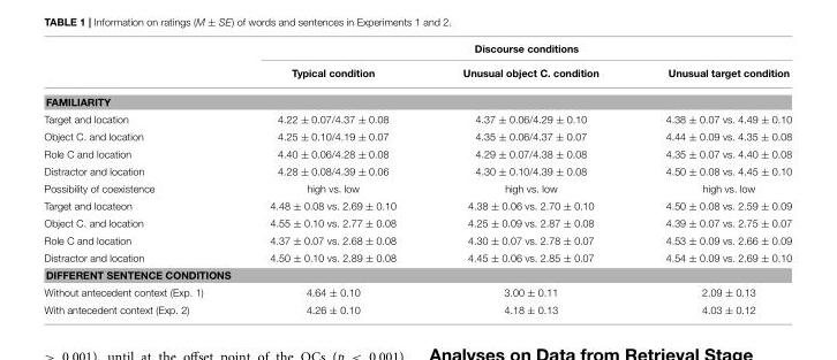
<table><thead><tr><td rowspan="2"></td><td colspan="3">Discourse conditions</td></tr><tr><td>Typical condition</td><td>Unusual object C. condition</td><td>Unusual target condition</td></tr></thead><tbody><tr><td colspan="4">FAMILIARITY</td></tr><tr><td>Target and location</td><td>4.22 ± 0.07/4.37 ± 0.08</td><td>4.37 ± 0.06/4.29 ± 0.10</td><td>4.38 ± 0.07 vs. 4.49 ± 0.10</td></tr><tr><td>Object C. and location</td><td>4.25 ± 0.10/4.19 ± 0.07</td><td>4.35 ± 0.06/4.37 ± 0.07</td><td>4.44 ± 0.09 vs. 4.35 ± 0.08</td></tr><tr><td>Role C and location</td><td>4.40 ± 0.06/4.28 ± 0.08</td><td>4.29 ± 0.07/4.38 ± 0.08</td><td>4.35 ± 0.07 vs. 4.40 ± 0.08</td></tr><tr><td>Distractor and location</td><td>4.28 ± 0.08/4.39 ± 0.06</td><td>4.30 ± 0.10/4.39 ± 0.08</td><td>4.50 ± 0.08 vs. 4.45 ± 0.10</td></tr><tr><td>Possibility of coexistence</td><td>high vs. low</td><td>high vs. low</td><td>high vs. low</td></tr><tr><td>Target and locateon</td><td>4.48 ± 0.08 vs. 2.69 ± 0.10</td><td>4.38 ± 0.06 vs. 2.70 ± 0.10</td><td>4.50 ± 0.08 vs. 2.59 ± 0.09</td></tr><tr><td>Object C. and location</td><td>4.55 ± 0.10 vs. 2.77 ± 0.08</td><td>4.25 ± 0.09 vs. 2.87 ± 0.08</td><td>4.39 ± 0.07 vs. 2.75 ± 0.07</td></tr><tr><td>Role C and location</td><td>4.37 ± 0.07 vs. 2.68 ± 0.08</td><td>4.30 ± 0.07 vs. 2.78 ± 0.07</td><td>4.53 ± 0.09 vs. 2.66 ± 0.09</td></tr><tr><td>Distractor and location</td><td>4.50 ± 0.10 vs. 2.89 ± 0.08</td><td>4.45 ± 0.06 vs. 2.85 ± 0.07</td><td>4.54 ± 0.09 vs. 2.69 ± 0.10</td></tr><tr><td colspan="4">DIFFERENT SENTENCE CONDITIONS</td></tr><tr><td>Without antecedent context (Exp. 1)</td><td>4.64 ± 0.10</td><td>3.00 ± 0.11</td><td>2.09 ± 0.13</td></tr><tr><td>With antecedent context (Exp. 2)</td><td>4.26 ± 0.10</td><td>4.18 ± 0.13</td><td>4.03 ± 0.12</td></tr></tbody></table>